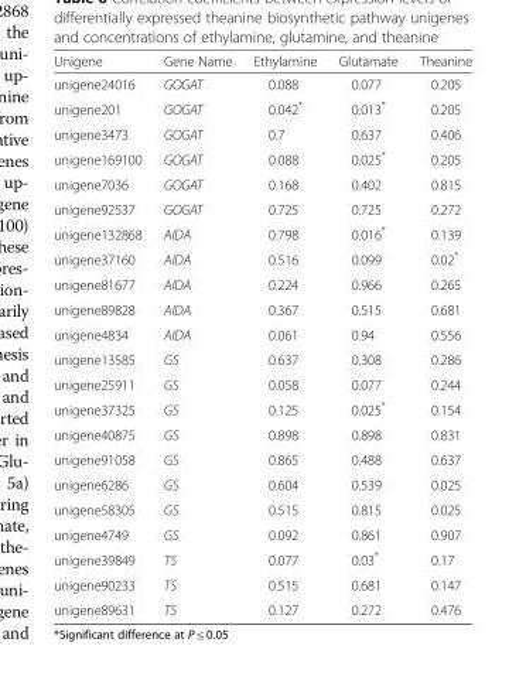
<table><thead><tr><td>Unigene</td><td>Gene Name</td><td>Ethylamine</td><td>Glutamate</td><td>Theanine</td></tr></thead><tbody><tr><td>unigene24016</td><td>GOGAT</td><td>0.088</td><td>0.077</td><td>0.205</td></tr><tr><td>unigene201</td><td>GOGAT</td><td>0.042*</td><td>0.013*</td><td>0.205</td></tr><tr><td>unigene3473</td><td>GOGAT</td><td>0.7</td><td>0.637</td><td>0.406</td></tr><tr><td>unigene169100</td><td>GOGAT</td><td>0.088</td><td>0.025*</td><td>0.205</td></tr><tr><td>unigene7036</td><td>GOGAT</td><td>0.168</td><td>0.402</td><td>0.815</td></tr><tr><td>unigene92537</td><td>GOGAT</td><td>0.725</td><td>0.725</td><td>0.272</td></tr><tr><td>unigene132868</td><td>AIDA</td><td>0.798</td><td>0.016*</td><td>0.139</td></tr><tr><td>unigene37160</td><td>AIDA</td><td>0.516</td><td>0.099</td><td>0.02*</td></tr><tr><td>unigene81677</td><td>AIDA</td><td>0.224</td><td>0.966</td><td>0.265</td></tr><tr><td>unigene89828</td><td>AIDA</td><td>0.367</td><td>0.515</td><td>0.681</td></tr><tr><td>unigene4834</td><td>AIDA</td><td>0.061</td><td>0.94</td><td>0.556</td></tr><tr><td>unigene13585</td><td>GS</td><td>0.637</td><td>0.308</td><td>0.286</td></tr><tr><td>unigene25911</td><td>GS</td><td>0.058</td><td>0.077</td><td>0.244</td></tr><tr><td>unigene37325</td><td>GS</td><td>0.125</td><td>0.025*</td><td>0.154</td></tr><tr><td>unigene40875</td><td>GS</td><td>0.898</td><td>0.898</td><td>0.831</td></tr><tr><td>unigene91058</td><td>GS</td><td>0.865</td><td>0.488</td><td>0.637</td></tr><tr><td>unigene6286</td><td>GS</td><td>0.604</td><td>0.539</td><td>0.025</td></tr><tr><td>unigene58305</td><td>GS</td><td>0.515</td><td>0.815</td><td>0.025</td></tr><tr><td>unigene4749</td><td>GS</td><td>0.092</td><td>0.861</td><td>0.907</td></tr><tr><td>unigene39849</td><td>TS</td><td>0.077</td><td>0.03*</td><td>0.17</td></tr><tr><td>unigene90233</td><td>TS</td><td>0.515</td><td>0.681</td><td>0.147</td></tr><tr><td>unigene89631</td><td>TS</td><td>0.127</td><td>0.272</td><td>0.476</td></tr></tbody></table>